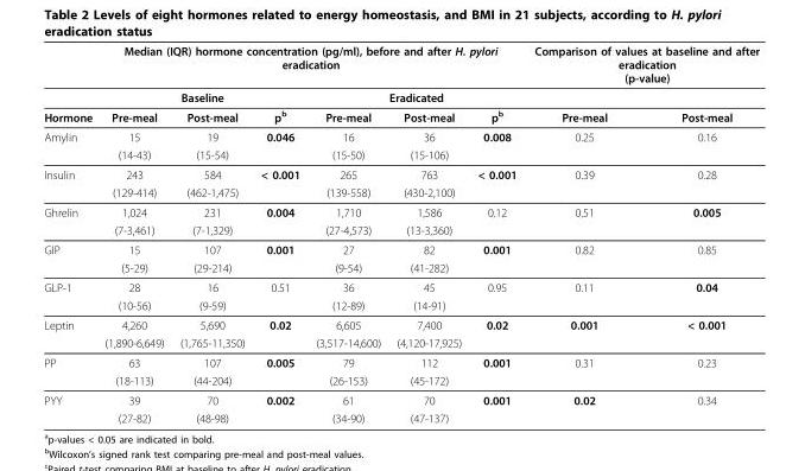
<table><thead><tr><td rowspan="3">Hormone</td><td colspan="6">Median (IQR) hormone concentration (pg/ml), before and after H. pylori eradication</td><td colspan="2">Comparison of values at baseline and after eradication (p-value)</td></tr><tr><td colspan="3">Baseline</td><td colspan="3">Eradicated</td><td rowspan="2">Pre-meal</td><td rowspan="2">Post-meal</td></tr><tr><td>Pre-meal</td><td>Post-meal</td><td>p<sup>b</sup></td><td>Pre-meal</td><td>Post-meal</td><td>p<sup>b</sup></td></tr></thead><tbody><tr><td rowspan="2">Amylin</td><td>15</td><td>19</td><td>0.046</td><td>16</td><td>36</td><td>0.008</td><td>0.25</td><td>0.16</td></tr><tr><td>(14-43)</td><td>(15-54)</td><td></td><td>(15-50)</td><td>(15-106)</td><td></td><td></td><td></td></tr><tr><td rowspan="2">Insulin</td><td>243</td><td>584</td><td>&lt; 0.001</td><td>265</td><td>763</td><td>&lt; 0.001</td><td>0.39</td><td>0.28</td></tr><tr><td>(129-414)</td><td>(462-1,475)</td><td></td><td>(139-558)</td><td>(430-2,100)</td><td></td><td></td><td></td></tr><tr><td rowspan="2">Ghrelin</td><td>1,024</td><td>231</td><td>0.004</td><td>1,710</td><td>1,586</td><td>0.12</td><td>0.51</td><td>0.005</td></tr><tr><td>(7-3,461)</td><td>(7-1,329)</td><td></td><td>(27-4,573)</td><td>(13-3,360)</td><td></td><td></td><td></td></tr><tr><td rowspan="2">GIP</td><td>15</td><td>107</td><td>0.001</td><td>27</td><td>82</td><td>0.001</td><td>0.82</td><td>0.85</td></tr><tr><td>(5-29)</td><td>(29-214)</td><td></td><td>(9-54)</td><td>(41-282)</td><td></td><td></td><td></td></tr><tr><td rowspan="2">GLP-1</td><td>28</td><td>16</td><td>0.51</td><td>36</td><td>45</td><td>0.95</td><td>0.11</td><td>0.04</td></tr><tr><td>(10-56)</td><td>(9-59)</td><td></td><td>(12-89)</td><td>(14-91)</td><td></td><td></td><td></td></tr><tr><td rowspan="2">Leptin</td><td>4,260</td><td>5,690</td><td>0.02</td><td>6,605</td><td>7,400</td><td>0.02</td><td>0.001</td><td>&lt; 0.001</td></tr><tr><td>(1,890-6,649)</td><td>(1,765-11,350)</td><td></td><td>(3,517-14,600)</td><td>(4,120-17,925)</td><td></td><td></td><td></td></tr><tr><td rowspan="2">PP</td><td>63</td><td>107</td><td>0.005</td><td>79</td><td>112</td><td>0.001</td><td>0.31</td><td>0.23</td></tr><tr><td>(18-113)</td><td>(44-204)</td><td></td><td>(26-153)</td><td>(45-172)</td><td></td><td></td><td></td></tr><tr><td rowspan="2">PYY</td><td>39</td><td>70</td><td>0.002</td><td>61</td><td>70</td><td>0.001</td><td>0.02</td><td>0.34</td></tr><tr><td>(27-82)</td><td>(48-98)</td><td></td><td>(34-90)</td><td>(47-137)</td><td></td><td></td><td></td></tr></tbody></table>